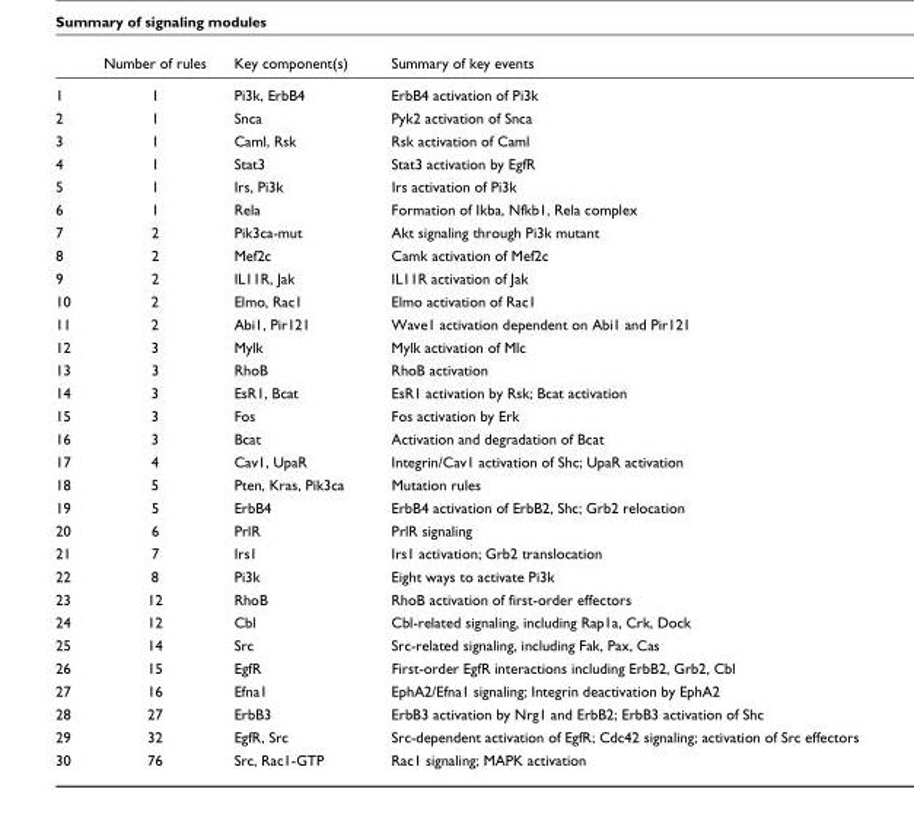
<table><thead><tr><td></td><td>Number of rules</td><td>Key component(s)</td><td>Summary of key events</td></tr></thead><tbody><tr><td>1</td><td>1</td><td>Pi3k, ErbB4</td><td>ErbB4 activation of Pi3k</td></tr><tr><td>2</td><td>1</td><td>Snca</td><td>Pyk2 activation of Snca</td></tr><tr><td>3</td><td>1</td><td>Caml, Rsk</td><td>Rsk activation of Caml</td></tr><tr><td>4</td><td>1</td><td>Stat3</td><td>Stat3 activation by EgfR</td></tr><tr><td>5</td><td>1</td><td>Irs, Pi3k</td><td>Irs activation of Pi3k</td></tr><tr><td>6</td><td>1</td><td>Rela</td><td>Formation of Ikba, Nfkb1, Rela complex</td></tr><tr><td>7</td><td>2</td><td>Pik3ca-mut</td><td>Akt signaling through Pi3k mutant</td></tr><tr><td>8</td><td>2</td><td>Mef2c</td><td>Camk activation of Mef2c</td></tr><tr><td>9</td><td>2</td><td>IL11R, Jak</td><td>IL11R activation of Jak</td></tr><tr><td>10</td><td>2</td><td>Elmo, Rac1</td><td>Elmo activation of Rac1</td></tr><tr><td>11</td><td>2</td><td>Abi1, Pir121</td><td>Wave1 activation dependent on Abi1 and Pir121</td></tr><tr><td>12</td><td>3</td><td>Mylk</td><td>Mylk activation of Mlc</td></tr><tr><td>13</td><td>3</td><td>RhoB</td><td>RhoB activation</td></tr><tr><td>14</td><td>3</td><td>EsR1, Bcat</td><td>EsR1 activation by Rsk; Bcat activation</td></tr><tr><td>15</td><td>3</td><td>Fos</td><td>Fos activation by Erk</td></tr><tr><td>16</td><td>3</td><td>Bcat</td><td>Activation and degradation of Bcat</td></tr><tr><td>17</td><td>4</td><td>Cav1, UpaR</td><td>Integrin/Cav1 activation of Shc; UpaR activation</td></tr><tr><td>18</td><td>5</td><td>Pten, Kras, Pik3ca</td><td>Mutation rules</td></tr><tr><td>19</td><td>5</td><td>ErbB4</td><td>ErbB4 activation of ErbB2, Shc; Grb2 relocation</td></tr><tr><td>20</td><td>6</td><td>PrlR</td><td>PrlR signaling</td></tr><tr><td>21</td><td>7</td><td>Irs1</td><td>Irs1 activation; Grb2 translocation</td></tr><tr><td>22</td><td>8</td><td>Pi3k</td><td>Eight ways to activate Pi3k</td></tr><tr><td>23</td><td>12</td><td>RhoB</td><td>RhoB activation of first-order effectors</td></tr><tr><td>24</td><td>12</td><td>Cbl</td><td>Cbl-related signaling, including Rap1a, Crk, Dock</td></tr><tr><td>25</td><td>14</td><td>Src</td><td>Src-related signaling, including Fak, Pax, Cas</td></tr><tr><td>26</td><td>15</td><td>EgfR</td><td>First-order EgfR interactions including ErbB2, Grb2, Cbl</td></tr><tr><td>27</td><td>16</td><td>Efna1</td><td>EphA2/Efna1 signaling; Integrin deactivation by EphA2</td></tr><tr><td>28</td><td>27</td><td>ErbB3</td><td>ErbB3 activation by Nrg1 and ErbB2; ErbB3 activation of Shc</td></tr><tr><td>29</td><td>32</td><td>EgfR, Src</td><td>Src-dependent activation of EgfR; Cdc42 signaling; activation of Src effectors</td></tr><tr><td>30</td><td>76</td><td>Src, Rac1-GTP</td><td>Rac1 signaling; MAPK activation</td></tr></tbody></table>